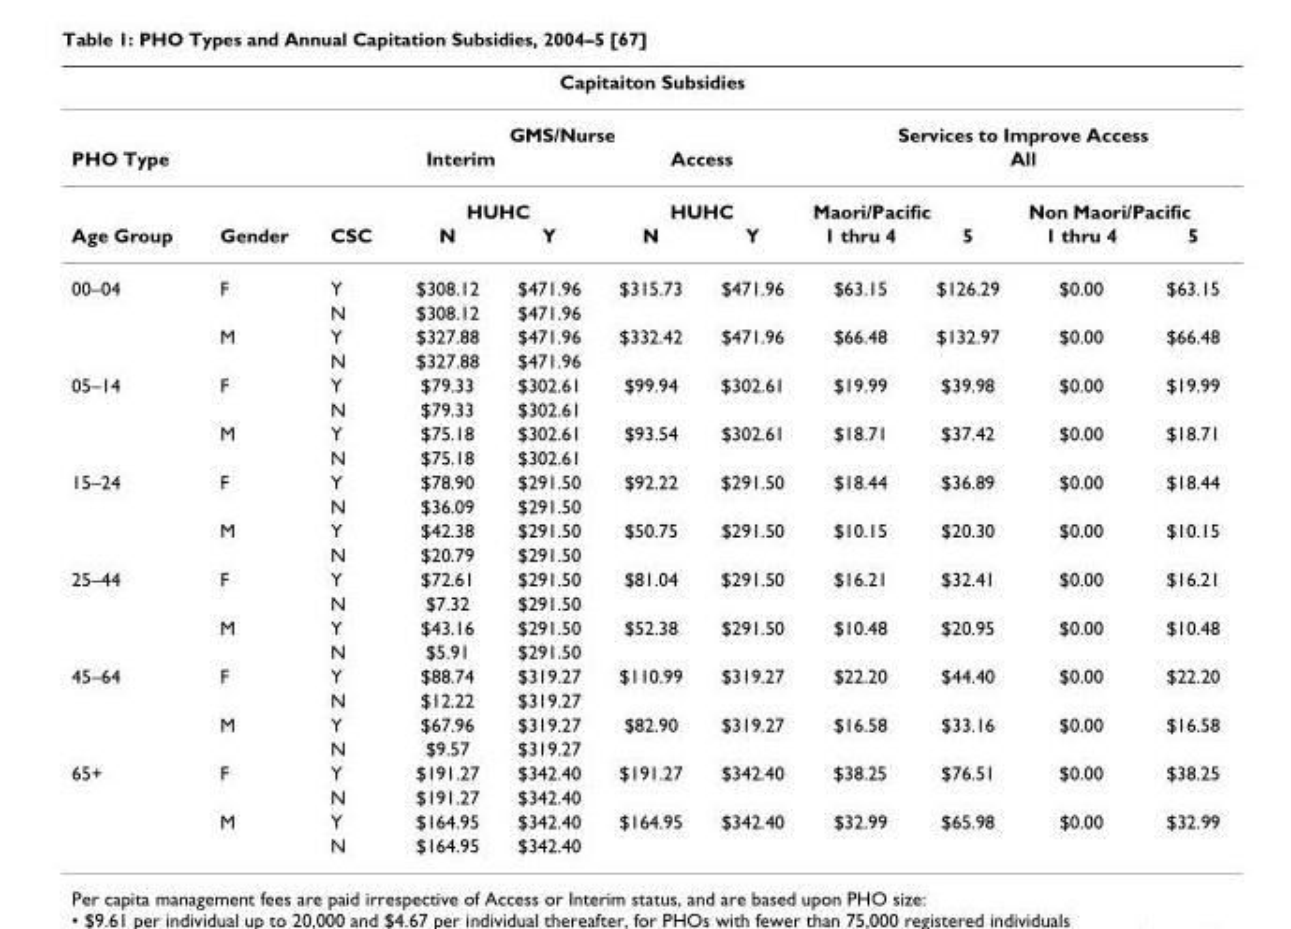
<table><thead><tr><td colspan="11">Capitaiton Subsidies</td></tr></thead><tbody><tr><td></td><td></td><td colspan="5">GMS/Nurse</td><td colspan="4">Services to Improve Access</td></tr><tr><td colspan="2">PHO Type</td><td colspan="3">Interim</td><td colspan="2">Access</td><td colspan="4">All</td></tr><tr><td></td><td></td><td></td><td colspan="2">HUHC</td><td colspan="2">HUHC</td><td colspan="2">Maori/Pacific</td><td colspan="2">Non Maori/Pacific</td></tr><tr><td>Age Group</td><td>Gender</td><td>CSC</td><td>N</td><td>Y</td><td>N</td><td>Y</td><td>1 thru 4</td><td>5</td><td>1 thru 4</td><td>5</td></tr><tr><td rowspan="4">00–04</td><td>F</td><td>Y</td><td>$308.12</td><td>$471.96</td><td>$315.73</td><td>$471.96</td><td>$63.15</td><td>$126.29</td><td>$0.00</td><td>$63.15</td></tr><tr><td></td><td>N</td><td>$308.12</td><td>$471.96</td><td></td><td></td><td></td><td></td><td></td><td></td></tr><tr><td>M</td><td>Y</td><td>$327.88</td><td>$471.96</td><td>$332.42</td><td>$471.96</td><td>$66.48</td><td>$132.97</td><td>$0.00</td><td>$66.48</td></tr><tr><td></td><td>N</td><td>$327.88</td><td>$471.96</td><td></td><td></td><td></td><td></td><td></td><td></td></tr><tr><td rowspan="4">05–14</td><td>F</td><td>Y</td><td>$79.33</td><td>$302.61</td><td>$99.94</td><td>$302.61</td><td>$19.99</td><td>$39.98</td><td>$0.00</td><td>$19.99</td></tr><tr><td></td><td>N</td><td>$79.33</td><td>$302.61</td><td></td><td></td><td></td><td></td><td></td><td></td></tr><tr><td>M</td><td>Y</td><td>$75.18</td><td>$302.61</td><td>$93.54</td><td>$302.61</td><td>$18.71</td><td>$37.42</td><td>$0.00</td><td>$18.71</td></tr><tr><td></td><td>N</td><td>$75.18</td><td>$302.61</td><td></td><td></td><td></td><td></td><td></td><td></td></tr><tr><td rowspan="4">15–24</td><td>F</td><td>Y</td><td>$78.90</td><td>$291.50</td><td>$92.22</td><td>$291.50</td><td>$18.44</td><td>$36.89</td><td>$0.00</td><td>$18.44</td></tr><tr><td></td><td>N</td><td>$36.09</td><td>$291.50</td><td></td><td></td><td></td><td></td><td></td><td></td></tr><tr><td>M</td><td>Y</td><td>$42.38</td><td>$291.50</td><td>$50.75</td><td>$291.50</td><td>$10.15</td><td>$20.30</td><td>$0.00</td><td>$10.15</td></tr><tr><td></td><td>N</td><td>$20.79</td><td>$291.50</td><td></td><td></td><td></td><td></td><td></td><td></td></tr><tr><td rowspan="4">25–44</td><td>F</td><td>Y</td><td>$72.61</td><td>$291.50</td><td>$81.04</td><td>$291.50</td><td>$16.21</td><td>$32.41</td><td>$0.00</td><td>$16.21</td></tr><tr><td></td><td>N</td><td>$7.32</td><td>$291.50</td><td></td><td></td><td></td><td></td><td></td><td></td></tr><tr><td>M</td><td>Y</td><td>$43.16</td><td>$291.50</td><td>$52.38</td><td>$291.50</td><td>$10.48</td><td>$20.95</td><td>$0.00</td><td>$10.48</td></tr><tr><td></td><td>N</td><td>$5.91</td><td>$291.50</td><td></td><td></td><td></td><td></td><td></td><td></td></tr><tr><td rowspan="4">45–64</td><td>F</td><td>Y</td><td>$88.74</td><td>$319.27</td><td>$110.99</td><td>$319.27</td><td>$22.20</td><td>$44.40</td><td>$0.00</td><td>$22.20</td></tr><tr><td></td><td>N</td><td>$12.22</td><td>$319.27</td><td></td><td></td><td></td><td></td><td></td><td></td></tr><tr><td>M</td><td>Y</td><td>$67.96</td><td>$319.27</td><td>$82.90</td><td>$319.27</td><td>$16.58</td><td>$33.16</td><td>$0.00</td><td>$16.58</td></tr><tr><td></td><td>N</td><td>$9.57</td><td>$319.27</td><td></td><td></td><td></td><td></td><td></td><td></td></tr><tr><td rowspan="4">65+</td><td>F</td><td>Y</td><td>$191.27</td><td>$342.40</td><td>$191.27</td><td>$342.40</td><td>$38.25</td><td>$76.51</td><td>$0.00</td><td>$38.25</td></tr><tr><td></td><td>N</td><td>$191.27</td><td>$342.40</td><td></td><td></td><td></td><td></td><td></td><td></td></tr><tr><td>M</td><td>Y</td><td>$164.95</td><td>$342.40</td><td>$164.95</td><td>$342.40</td><td>$32.99</td><td>$65.98</td><td>$0.00</td><td>$32.99</td></tr><tr><td></td><td>N</td><td>$164.95</td><td>$342.40</td><td></td><td></td><td></td><td></td><td></td><td></td></tr></tbody></table>